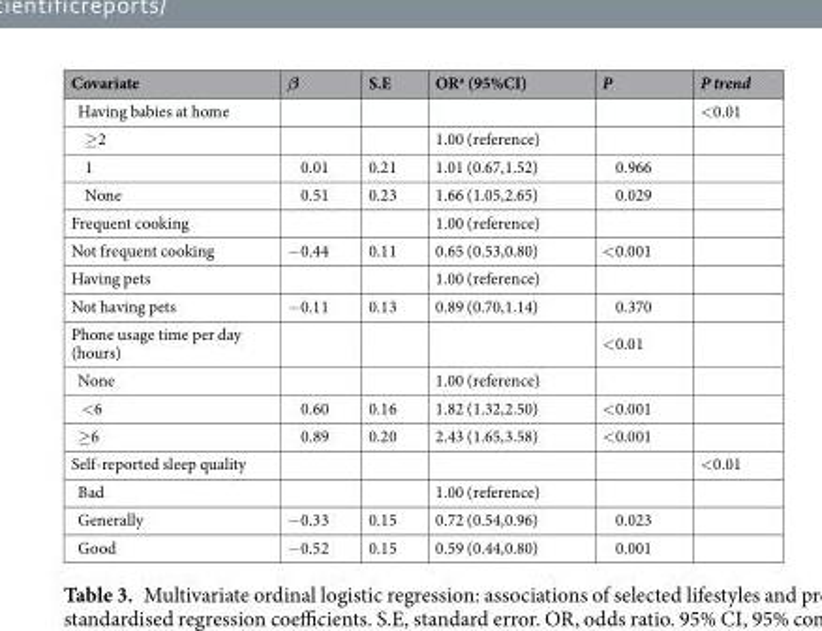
<table><thead><tr><td>Covariate</td><td>β</td><td>S.E</td><td>OR<sup>a</sup> (95%CI)</td><td>P</td><td>P trend</td></tr></thead><tbody><tr><td>Having babies at home</td><td></td><td></td><td></td><td></td><td>&lt;0.01</td></tr><tr><td>≥2</td><td></td><td></td><td>1.00 (reference)</td><td></td><td></td></tr><tr><td>1</td><td>0.01</td><td>0.21</td><td>1.01 (0.67,1.52)</td><td>0.966</td><td></td></tr><tr><td>None</td><td>0.51</td><td>0.23</td><td>1.66 (1.05,2.65)</td><td>0.029</td><td></td></tr><tr><td>Frequent cooking</td><td></td><td></td><td>1.00 (reference)</td><td></td><td></td></tr><tr><td>Not frequent cooking</td><td>−0.44</td><td>0.11</td><td>0.65 (0.53,0.80)</td><td>&lt;0.001</td><td></td></tr><tr><td>Having pets</td><td></td><td></td><td>1.00 (reference)</td><td></td><td></td></tr><tr><td>Not having pets</td><td>−0.11</td><td>0.13</td><td>0.89 (0.70,1.14)</td><td>0.370</td><td></td></tr><tr><td>Phone usage time per day (hours)</td><td></td><td></td><td></td><td>&lt;0.01</td><td></td></tr><tr><td>None</td><td></td><td></td><td>1.00 (reference)</td><td></td><td></td></tr><tr><td>&lt;6</td><td>0.60</td><td>0.16</td><td>1.82 (1.32,2.50)</td><td>&lt;0.001</td><td></td></tr><tr><td>≥6</td><td>0.89</td><td>0.20</td><td>2.43 (1.65,3.58)</td><td>&lt;0.001</td><td></td></tr><tr><td>Self-reported sleep quality</td><td></td><td></td><td></td><td></td><td>&lt;0.01</td></tr><tr><td>Bad</td><td></td><td></td><td>1.00 (reference)</td><td></td><td></td></tr><tr><td>Generally</td><td>−0.33</td><td>0.15</td><td>0.72 (0.54,0.96)</td><td>0.023</td><td></td></tr><tr><td>Good</td><td>−0.52</td><td>0.15</td><td>0.59 (0.44,0.80)</td><td>0.001</td><td></td></tr></tbody></table>